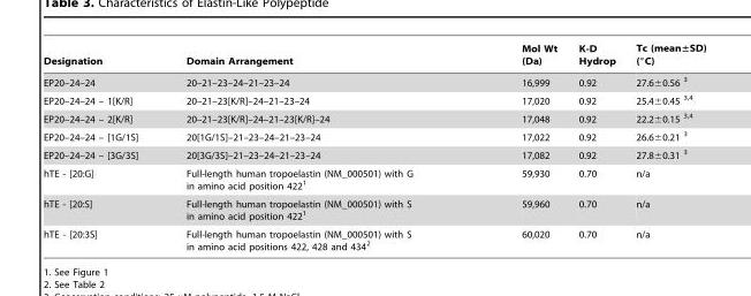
<table><thead><tr><td>Designation</td><td>Domain Arrangement</td><td>Mol Wt (Da)</td><td>K-D Hydrop</td><td>Tc (mean±SD) (°C)</td></tr></thead><tbody><tr><td>EP20–24–24</td><td>20–21–23–24–21–23–24</td><td>16,999</td><td>0.92</td><td>27.6±0.56 <sup>3</sup></td></tr><tr><td>EP20–24–24 – 1[K/R]</td><td>20–21–23[K/R]–24–21–23–24</td><td>17,020</td><td>0.92</td><td>25.4±0.45 <sup>3,4</sup></td></tr><tr><td>EP20–24–24 – 2[K/R]</td><td>20–21–23[K/R]–24–21–23[K/R]–24</td><td>17,048</td><td>0.92</td><td>22.2±0.15 <sup>3,4</sup></td></tr><tr><td>EP20–24–24 – [1G/1S]</td><td>20[1G/1S]–21–23–24–21–23–24</td><td>17,022</td><td>0.92</td><td>26.6±0.21 <sup>3</sup></td></tr><tr><td>EP20–24–24 – [3G/3S]</td><td>20[3G/3S]–21–23–24–21–23–24</td><td>17,082</td><td>0.92</td><td>27.8±0.31 <sup>3</sup></td></tr><tr><td>hTE - [20:G]</td><td>Full-length human tropoelastin (NM_000501) with G in amino acid position 422<sup>1</sup></td><td>59,930</td><td>0.70</td><td>n/a</td></tr><tr><td>hTE - [20:S]</td><td>Full-length human tropoelastin (NM_000501) with S in amino acid position 422<sup>1</sup></td><td>59,960</td><td>0.70</td><td>n/a</td></tr><tr><td>hTE - [20:3S]</td><td>Full-length human tropoelastin (NM_000501) with S in amino acid positions 422, 428 and 434<sup>2</sup></td><td>60,020</td><td>0.70</td><td>n/a</td></tr></tbody></table>